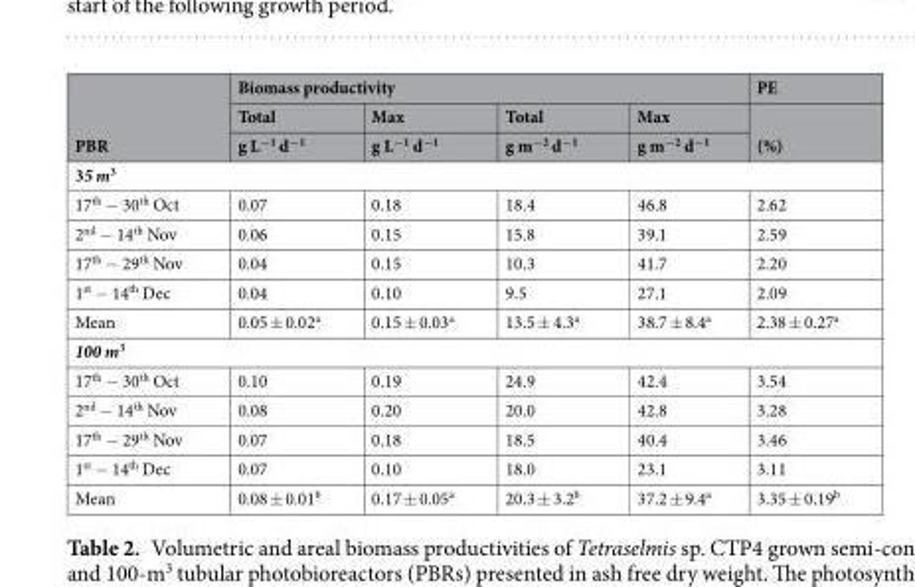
<table><thead><tr><td rowspan="3">PBR</td><td colspan="4">Biomass productivity</td><td rowspan="3">PE (%)</td></tr><tr><td rowspan="2">Total g L<sup>−1</sup> d<sup>−1</sup></td><td rowspan="2">Max g L<sup>−1</sup> d<sup>−1</sup></td><td rowspan="2">Total g m<sup>−2</sup> d<sup>−1</sup></td><td rowspan="2">Max g m<sup>−2</sup> d<sup>−1</sup></td></tr><tr></tr></thead><tbody><tr><td colspan="6">35 m<sup>3</sup></td></tr><tr><td>17<sup>th</sup> − 30<sup>th</sup> Oct</td><td>0.07</td><td>0.18</td><td>18.4</td><td>46.8</td><td>2.62</td></tr><tr><td>2<sup>nd</sup> − 14<sup>th</sup> Nov</td><td>0.06</td><td>0.15</td><td>15.8</td><td>39.1</td><td>2.59</td></tr><tr><td>17<sup>th</sup> − 29<sup>th</sup> Nov</td><td>0.04</td><td>0.15</td><td>10.3</td><td>41.7</td><td>2.20</td></tr><tr><td>1<sup>st</sup> − 14<sup>th</sup> Dec</td><td>0.04</td><td>0.10</td><td>9.5</td><td>27.1</td><td>2.09</td></tr><tr><td>Mean</td><td>0.05 ± 0.02<sup>a</sup></td><td>0.15 ± 0.03<sup>a</sup></td><td>13.5 ± 4.3<sup>a</sup></td><td>38.7 ± 8.4<sup>a</sup></td><td>2.38 ± 0.27<sup>a</sup></td></tr><tr><td colspan="6">100 m<sup>3</sup></td></tr><tr><td>17<sup>th</sup> − 30<sup>th</sup> Oct</td><td>0.10</td><td>0.19</td><td>24.9</td><td>42.4</td><td>3.54</td></tr><tr><td>2<sup>nd</sup> − 14<sup>th</sup> Nov</td><td>0.08</td><td>0.20</td><td>20.0</td><td>42.8</td><td>3.28</td></tr><tr><td>17<sup>th</sup> − 29<sup>th</sup> Nov</td><td>0.07</td><td>0.18</td><td>18.5</td><td>40.4</td><td>3.46</td></tr><tr><td>1<sup>st</sup> − 14<sup>th</sup> Dec</td><td>0.07</td><td>0.10</td><td>18.0</td><td>23.1</td><td>3.11</td></tr><tr><td>Mean</td><td>0.08 ± 0.01<sup>b</sup></td><td>0.17 ± 0.05<sup>a</sup></td><td>20.3 ± 3.2<sup>b</sup></td><td>37.2 ± 9.4<sup>a</sup></td><td>3.35 ± 0.19<sup>b</sup></td></tr></tbody></table>